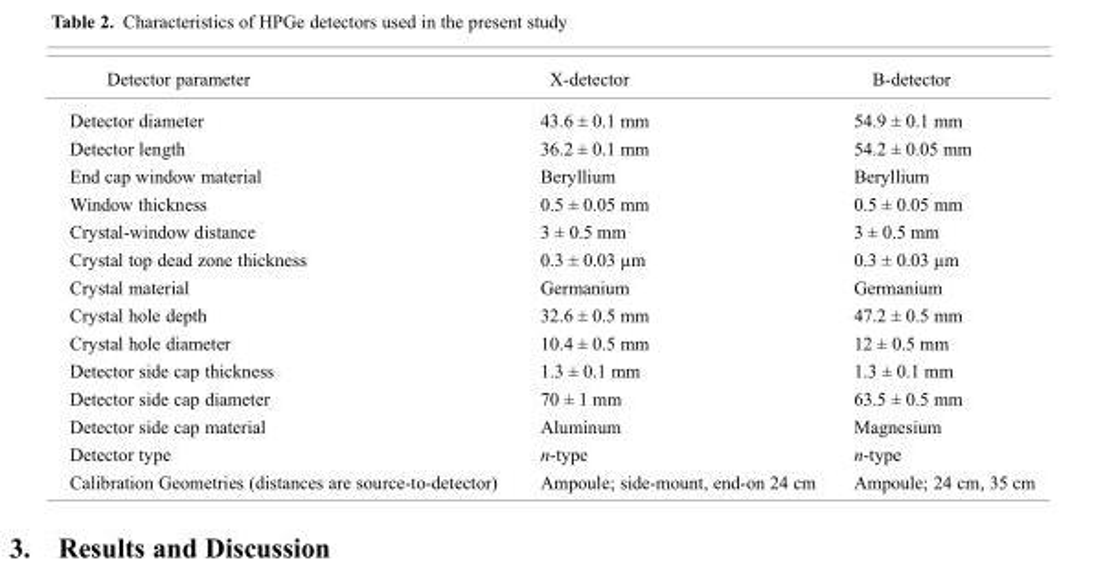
<table><thead><tr><td>Detector parameter</td><td>X-detector</td><td>B-detector</td></tr></thead><tbody><tr><td>Detector diameter</td><td>43.6 ± 0.1 mm</td><td>54.9 ± 0.1 mm</td></tr><tr><td>Detector length</td><td>36.2 ± 0.1 mm</td><td>54.2 ± 0.05 mm</td></tr><tr><td>End cap window material</td><td>Beryllium</td><td>Beryllium</td></tr><tr><td>Window thickness</td><td>0.5 ± 0.05 mm</td><td>0.5 ± 0.05 mm</td></tr><tr><td>Crystal-window distance</td><td>3 ± 0.5 mm</td><td>3 ± 0.5 mm</td></tr><tr><td>Crystal top dead zone thickness</td><td>0.3 ± 0.03 μm</td><td>0.3 ± 0.03 μm</td></tr><tr><td>Crystal material</td><td>Germanium</td><td>Germanium</td></tr><tr><td>Crystal hole depth</td><td>32.6 ± 0.5 mm</td><td>47.2 ± 0.5 mm</td></tr><tr><td>Crystal hole diameter</td><td>10.4 ± 0.5 mm</td><td>12 ± 0.5 mm</td></tr><tr><td>Detector side cap thickness</td><td>1.3 ± 0.1 mm</td><td>1.3 ± 0.1 mm</td></tr><tr><td>Detector side cap diameter</td><td>70 ± 1 mm</td><td>63.5 ± 0.5 mm</td></tr><tr><td>Detector side cap material</td><td>Aluminum</td><td>Magnesium</td></tr><tr><td>Detector type</td><td>n-type</td><td>n-type</td></tr><tr><td>Calibration Geometries (distances are source-to-detector)</td><td>Ampoule; side-mount, end-on 24 cm</td><td>Ampoule; 24 cm, 35 cm</td></tr></tbody></table>